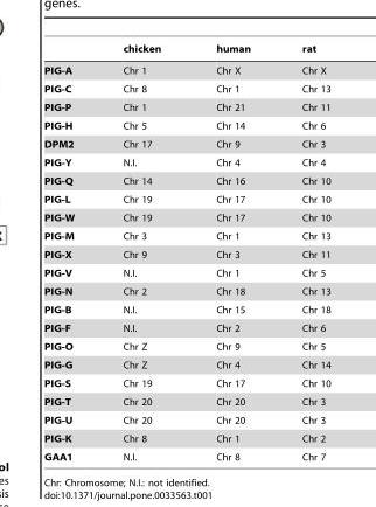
<table><thead><tr><td></td><td>chicken</td><td>human</td><td>rat</td></tr></thead><tbody><tr><td>PIG-A</td><td>Chr 1</td><td>Chr X</td><td>Chr X</td></tr><tr><td>PIG-C</td><td>Chr 8</td><td>Chr 1</td><td>Chr 13</td></tr><tr><td>PIG-P</td><td>Chr 1</td><td>Chr 21</td><td>Chr 11</td></tr><tr><td>PIG-H</td><td>Chr 5</td><td>Chr 14</td><td>Chr 6</td></tr><tr><td>DPM2</td><td>Chr 17</td><td>Chr 9</td><td>Chr 3</td></tr><tr><td>PIG-Y</td><td>N.I.</td><td>Chr 4</td><td>Chr 4</td></tr><tr><td>PIG-Q</td><td>Chr 14</td><td>Chr 16</td><td>Chr 10</td></tr><tr><td>PIG-L</td><td>Chr 19</td><td>Chr 17</td><td>Chr 10</td></tr><tr><td>PIG-W</td><td>Chr 19</td><td>Chr 17</td><td>Chr 10</td></tr><tr><td>PIG-M</td><td>Chr 3</td><td>Chr 1</td><td>Chr 13</td></tr><tr><td>PIG-X</td><td>Chr 9</td><td>Chr 3</td><td>Chr 11</td></tr><tr><td>PIG-V</td><td>N.I.</td><td>Chr 1</td><td>Chr 5</td></tr><tr><td>PIG-N</td><td>Chr 2</td><td>Chr 18</td><td>Chr 13</td></tr><tr><td>PIG-B</td><td>N.I.</td><td>Chr 15</td><td>Chr 18</td></tr><tr><td>PIG-F</td><td>N.I.</td><td>Chr 2</td><td>Chr 6</td></tr><tr><td>PIG-O</td><td>Chr Z</td><td>Chr 9</td><td>Chr 5</td></tr><tr><td>PIG-G</td><td>Chr Z</td><td>Chr 4</td><td>Chr 14</td></tr><tr><td>PIG-S</td><td>Chr 19</td><td>Chr 17</td><td>Chr 10</td></tr><tr><td>PIG-T</td><td>Chr 20</td><td>Chr 20</td><td>Chr 3</td></tr><tr><td>PIG-U</td><td>Chr 20</td><td>Chr 20</td><td>Chr 3</td></tr><tr><td>PIG-K</td><td>Chr 8</td><td>Chr 1</td><td>Chr 2</td></tr><tr><td>GAA1</td><td>N.I.</td><td>Chr 8</td><td>Chr 7</td></tr></tbody></table>